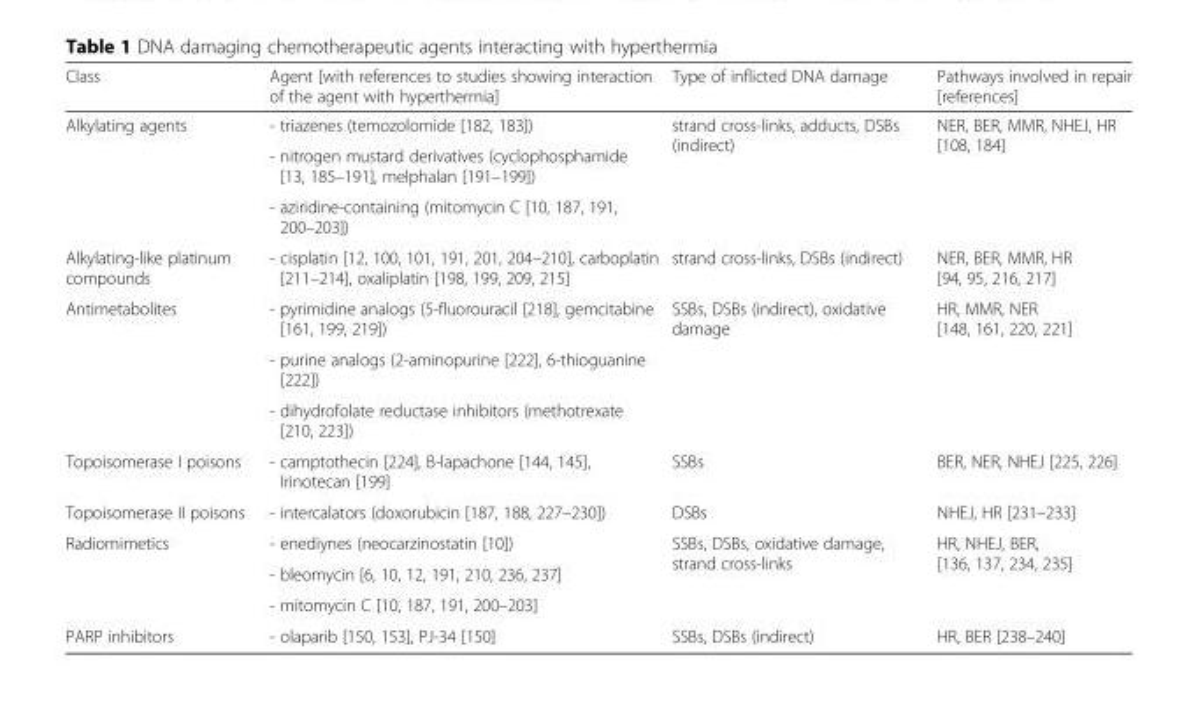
<table><thead><tr><td>Class</td><td>Agent [with references to studies showing interaction of the agent with hyperthermia]</td><td>Type of inflicted DNA damage</td><td>Pathways involved in repair [references]</td></tr></thead><tbody><tr><td rowspan="3">Alkylating agents</td><td>- triazenes (temozolomide [182, 183])</td><td rowspan="3">strand cross-links, adducts, DSBs (indirect)</td><td rowspan="3">NER, BER, MMR, NHEJ, HR [108, 184]</td></tr><tr><td>- nitrogen mustard derivatives (cyclophosphamide [13, 185–191], melphalan [191–199])</td></tr><tr><td>- aziridine-containing (mitomycin C [10, 187, 191, 200–203])</td></tr><tr><td>Alkylating-like platinum compounds</td><td>- cisplatin [12, 100, 101, 191, 201, 204–210], carboplatin [211–214], oxaliplatin [198, 199, 209, 215]</td><td>strand cross-links, DSBs (indirect)</td><td>NER, BER, MMR, HR [94, 95, 216, 217]</td></tr><tr><td rowspan="3">Antimetabolites</td><td>- pyrimidine analogs (5-fluorouracil [218], gemcitabine [161, 199, 219])</td><td rowspan="3">SSBs, DSBs (indirect), oxidative damage</td><td rowspan="3">HR, MMR, NER [148, 161, 220, 221]</td></tr><tr><td>- purine analogs (2-aminopurine [222], 6-thioguanine [222])</td></tr><tr><td>- dihydrofolate reductase inhibitors (methotrexate [210, 223])</td></tr><tr><td>Topoisomerase I poisons</td><td>- camptothecin [224], B-lapachone [144, 145], Irinotecan [199]</td><td>SSBs</td><td>BER, NER, NHEJ [225, 226]</td></tr><tr><td>Topoisomerase II poisons</td><td>- intercalators (doxorubicin [187, 188, 227–230])</td><td>DSBs</td><td>NHEJ, HR [231–233]</td></tr><tr><td rowspan="3">Radiomimetics</td><td>- enediynes (neocarzinostatin [10])</td><td rowspan="3">SSBs, DSBs, oxidative damage, strand cross-links</td><td rowspan="3">HR, NHEJ, BER, [136, 137, 234, 235]</td></tr><tr><td>- bleomycin [6, 10, 12, 191, 210, 236, 237]</td></tr><tr><td>- mitomycin C [10, 187, 191, 200–203]</td></tr><tr><td>PARP inhibitors</td><td>- olaparib [150, 153], PJ-34 [150]</td><td>SSBs, DSBs (indirect)</td><td>HR, BER [238–240]</td></tr></tbody></table>